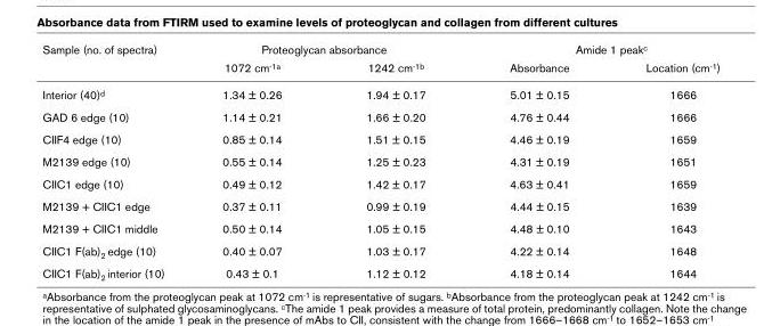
<table><thead><tr><td rowspan="2">Sample (no. of spectra)</td><td colspan="2">Proteoglycan absorbance</td><td colspan="2">Amide 1 peakc</td></tr><tr><td>1072 cm-1a</td><td>1242 cm-1b</td><td>Absorbance</td><td>Location (cm-1)</td></tr></thead><tbody><tr><td>Interior (40)d</td><td>1.34 ± 0.26</td><td>1.94 ± 0.17</td><td>5.01 ± 0.15</td><td>1666</td></tr><tr><td>GAD 6 edge (10)</td><td>1.14 ± 0.21</td><td>1.66 ± 0.20</td><td>4.76 ± 0.44</td><td>1666</td></tr><tr><td>CIIF4 edge (10)</td><td>0.85 ± 0.14</td><td>1.51 ± 0.15</td><td>4.46 ± 0.19</td><td>1659</td></tr><tr><td>M2139 edge (10)</td><td>0.55 ± 0.14</td><td>1.25 ± 0.23</td><td>4.31 ± 0.19</td><td>1651</td></tr><tr><td>CIIC1 edge (10)</td><td>0.49 ± 0.12</td><td>1.42 ± 0.17</td><td>4.63 ± 0.41</td><td>1659</td></tr><tr><td>M2139 + CIIC1 edge</td><td>0.37 ± 0.11</td><td>0.99 ± 0.19</td><td>4.44 ± 0.15</td><td>1639</td></tr><tr><td>M2139 + CIIC1 middle</td><td>0.50 ± 0.14</td><td>1.05 ± 0.15</td><td>4.48 ± 0.10</td><td>1643</td></tr><tr><td>CIIC1 F(ab)2 edge (10)</td><td>0.40 ± 0.07</td><td>1.03 ± 0.17</td><td>4.22 ± 0.14</td><td>1648</td></tr><tr><td>CIIC1 F(ab)2 interior (10)</td><td>0.43 ± 0.1</td><td>1.12 ± 0.12</td><td>4.18 ± 0.14</td><td>1644</td></tr></tbody></table>